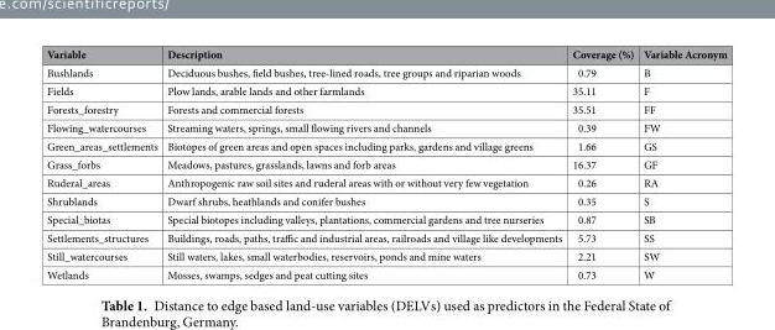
<table><thead><tr><td>Variable</td><td>Description</td><td>Coverage (%)</td><td>Variable Acronym</td></tr></thead><tbody><tr><td>Bushlands</td><td>Deciduous bushes, field bushes, tree-lined roads, tree groups and riparian woods</td><td>0.79</td><td>B</td></tr><tr><td>Fields</td><td>Plow lands, arable lands and other farmlands</td><td>35.11</td><td>F</td></tr><tr><td>Forests_forestry</td><td>Forests and commercial forests</td><td>35.51</td><td>FF</td></tr><tr><td>Flowing_watercourses</td><td>Streaming waters, springs, small flowing rivers and channels</td><td>0.39</td><td>FW</td></tr><tr><td>Green_areas_settlements</td><td>Biotopes of green areas and open spaces including parks, gardens and village greens</td><td>1.66</td><td>GS</td></tr><tr><td>Grass_forbs</td><td>Meadows, pastures, grasslands, lawns and forb areas</td><td>16.37</td><td>GF</td></tr><tr><td>Ruderal_areas</td><td>Anthropogenic raw soil sites and ruderal areas with or without very few vegetation</td><td>0.26</td><td>RA</td></tr><tr><td>Shrublands</td><td>Dwarf shrubs, heathlands and conifer bushes</td><td>0.35</td><td>S</td></tr><tr><td>Special_biotas</td><td>Special biotopes including valleys, plantations, commercial gardens and tree nurseries</td><td>0.87</td><td>SB</td></tr><tr><td>Settlements_structures</td><td>Buildings, roads, paths, traffic and industrial areas, railroads and village like developments</td><td>5.73</td><td>SS</td></tr><tr><td>Still_watercourses</td><td>Still waters, lakes, small waterbodies, reservoirs, ponds and mine waters</td><td>2.21</td><td>SW</td></tr><tr><td>Wetlands</td><td>Mosses, swamps, sedges and peat cutting sites</td><td>0.73</td><td>W</td></tr></tbody></table>